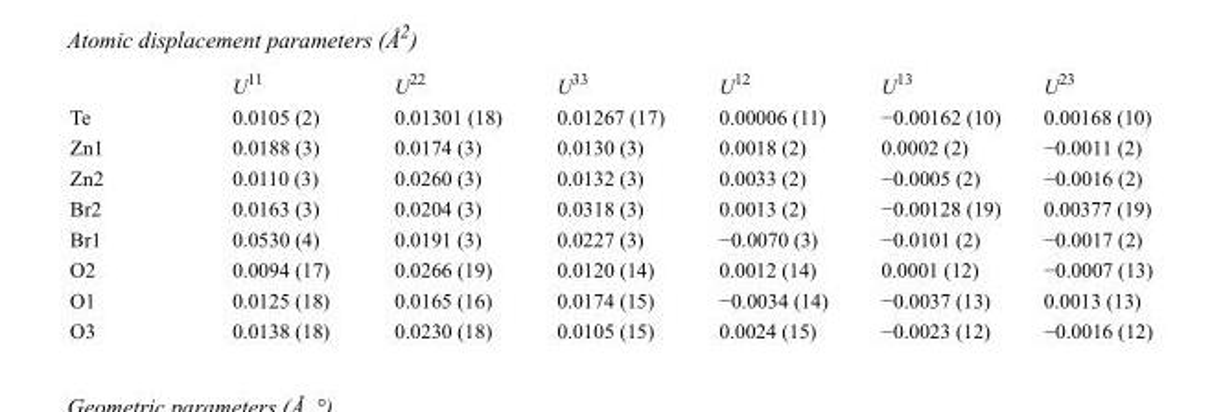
<table><thead><tr><td></td><td>U<sup>11</sup></td><td>U<sup>22</sup></td><td>U<sup>33</sup></td><td>U<sup>12</sup></td><td>U<sup>13</sup></td><td>U<sup>23</sup></td></tr></thead><tbody><tr><td>Te</td><td>0.0105 (2)</td><td>0.01301 (18)</td><td>0.01267 (17)</td><td>0.00006 (11)</td><td>−0.00162 (10)</td><td>0.00168 (10)</td></tr><tr><td>Zn1</td><td>0.0188 (3)</td><td>0.0174 (3)</td><td>0.0130 (3)</td><td>0.0018 (2)</td><td>0.0002 (2)</td><td>−0.0011 (2)</td></tr><tr><td>Zn2</td><td>0.0110 (3)</td><td>0.0260 (3)</td><td>0.0132 (3)</td><td>0.0033 (2)</td><td>−0.0005 (2)</td><td>−0.0016 (2)</td></tr><tr><td>Br2</td><td>0.0163 (3)</td><td>0.0204 (3)</td><td>0.0318 (3)</td><td>0.0013 (2)</td><td>−0.00128 (19)</td><td>0.00377 (19)</td></tr><tr><td>Br1</td><td>0.0530 (4)</td><td>0.0191 (3)</td><td>0.0227 (3)</td><td>−0.0070 (3)</td><td>−0.0101 (2)</td><td>−0.0017 (2)</td></tr><tr><td>O2</td><td>0.0094 (17)</td><td>0.0266 (19)</td><td>0.0120 (14)</td><td>0.0012 (14)</td><td>0.0001 (12)</td><td>−0.0007 (13)</td></tr><tr><td>O1</td><td>0.0125 (18)</td><td>0.0165 (16)</td><td>0.0174 (15)</td><td>−0.0034 (14)</td><td>−0.0037 (13)</td><td>0.0013 (13)</td></tr><tr><td>O3</td><td>0.0138 (18)</td><td>0.0230 (18)</td><td>0.0105 (15)</td><td>0.0024 (15)</td><td>−0.0023 (12)</td><td>−0.0016 (12)</td></tr></tbody></table>